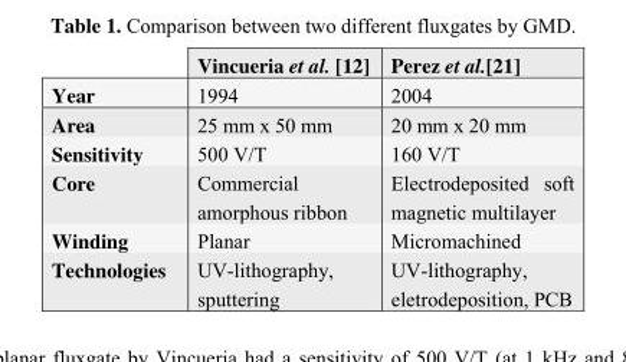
<table><thead><tr><td rowspan="2">Year</td><td rowspan="2">Vincueria et al. [12] 1994</td><td rowspan="2">Perez et al.[21] 2004</td></tr><tr></tr></thead><tbody><tr><td>Area</td><td>25 mm x 50 mm</td><td>20 mm x 20 mm</td></tr><tr><td>Sensitivity</td><td>500 V/T</td><td>160 V/T</td></tr><tr><td>Core</td><td>Commercial amorphous ribbon</td><td>Electrodeposited soft magnetic multilayer</td></tr><tr><td>Winding</td><td>Planar</td><td>Micromachined</td></tr><tr><td>Technologies</td><td>UV-lithography, sputtering</td><td>UV-lithography, eletrodeposition, PCB</td></tr></tbody></table>